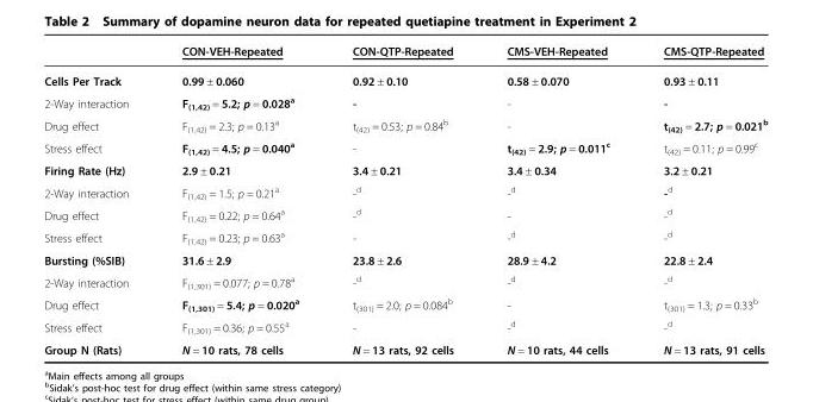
<table><thead><tr><td></td><td>CON-VEH-Repeated</td><td>CON-QTP-Repeated</td><td>CMS-VEH-Repeated</td><td>CMS-QTP-Repeated</td></tr></thead><tbody><tr><td>Cells Per Track</td><td>0.99 ± 0.060</td><td>0.92 ± 0.10</td><td>0.58 ± 0.070</td><td>0.93 ± 0.11</td></tr><tr><td>2-Way interaction</td><td>F<sub>(1,42)</sub> = 5.2; p = 0.028<sup>a</sup></td><td>-</td><td>-</td><td>-</td></tr><tr><td>Drug effect</td><td>F<sub>(1,42)</sub> = 2.3; p = 0.13<sup>a</sup></td><td>t<sub>(42)</sub> = 0.53; p = 0.84<sup>b</sup></td><td>-</td><td>t<sub>(42)</sub> = 2.7; p = 0.021<sup>b</sup></td></tr><tr><td>Stress effect</td><td>F<sub>(1,42)</sub> = 4.5; p = 0.040<sup>a</sup></td><td>-</td><td>t<sub>(42)</sub> = 2.9; p = 0.011<sup>c</sup></td><td>t<sub>(42)</sub> = 0.11; p = 0.99<sup>c</sup></td></tr><tr><td>Firing Rate (Hz)</td><td>2.9 ± 0.21</td><td>3.4 ± 0.21</td><td>3.4 ± 0.34</td><td>3.2 ± 0.21</td></tr><tr><td>2-Way interaction</td><td>F<sub>(1,42)</sub> = 1.5; p = 0.21<sup>a</sup></td><td>-<sup>d</sup></td><td>-<sup>d</sup></td><td>-<sup>d</sup></td></tr><tr><td>Drug effect</td><td>F<sub>(1,42)</sub> = 0.22; p = 0.64<sup>a</sup></td><td>-<sup>d</sup></td><td>-</td><td>-<sup>d</sup></td></tr><tr><td>Stress effect</td><td>F<sub>(1,42)</sub> = 0.23; p = 0.63<sup>a</sup></td><td>-</td><td>-<sup>d</sup></td><td>-<sup>d</sup></td></tr><tr><td>Bursting (%SIB)</td><td>31.6 ± 2.9</td><td>23.8 ± 2.6</td><td>28.9 ± 4.2</td><td>22.8 ± 2.4</td></tr><tr><td>2-Way interaction</td><td>F<sub>(1,301)</sub> = 0.077; p = 0.78<sup>a</sup></td><td>-<sup>d</sup></td><td>-<sup>d</sup></td><td>-<sup>d</sup></td></tr><tr><td>Drug effect</td><td>F<sub>(1,301)</sub> = 5.4; p = 0.020<sup>a</sup></td><td>t<sub>(301)</sub> = 2.0; p = 0.084<sup>b</sup></td><td>-</td><td>t<sub>(301)</sub> = 1.3; p = 0.33<sup>b</sup></td></tr><tr><td>Stress effect</td><td>F<sub>(1,301)</sub> = 0.36; p = 0.55<sup>a</sup></td><td>-</td><td>-<sup>d</sup></td><td>-<sup>d</sup></td></tr><tr><td>Group N (Rats)</td><td>N = 10 rats, 78 cells</td><td>N = 13 rats, 92 cells</td><td>N = 10 rats, 44 cells</td><td>N = 13 rats, 91 cells</td></tr></tbody></table>